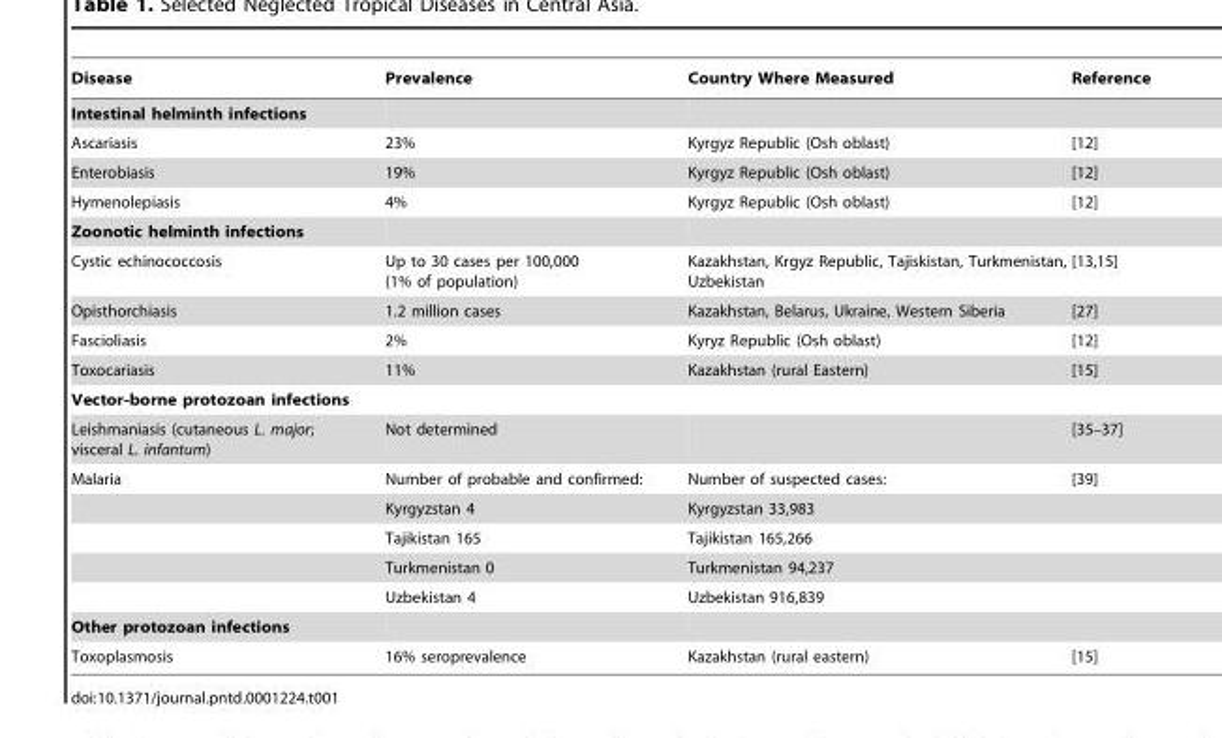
<table><thead><tr><td>Disease</td><td>Prevalence</td><td>Country Where Measured</td><td>Reference</td></tr></thead><tbody><tr><td colspan="4">Intestinal helminth infections</td></tr><tr><td>Ascariasis</td><td>23%</td><td>Kyrgyz Republic (Osh oblast)</td><td>[12]</td></tr><tr><td>Enterobiasis</td><td>19%</td><td>Kyrgyz Republic (Osh oblast)</td><td>[12]</td></tr><tr><td>Hymenolepiasis</td><td>4%</td><td>Kyrgyz Republic (Osh oblast)</td><td>[12]</td></tr><tr><td colspan="4">Zoonotic helminth infections</td></tr><tr><td>Cystic echinococcosis</td><td>Up to 30 cases per 100,000 (1% of population)</td><td>Kazakhstan, Krgyz Republic, Tajiskistan, Turkmenistan, Uzbekistan</td><td>[13,15]</td></tr><tr><td>Opisthorchiasis</td><td>1.2 million cases</td><td>Kazakhstan, Belarus, Ukraine, Western Siberia</td><td>[27]</td></tr><tr><td>Fascioliasis</td><td>2%</td><td>Kyryz Republic (Osh oblast)</td><td>[12]</td></tr><tr><td>Toxocariasis</td><td>11%</td><td>Kazakhstan (rural Eastern)</td><td>[15]</td></tr><tr><td colspan="4">Vector-borne protozoan infections</td></tr><tr><td>Leishmaniasis (cutaneous L. major; visceral L. infantum)</td><td>Not determined</td><td></td><td>[35–37]</td></tr><tr><td rowspan="5">Malaria</td><td>Number of probable and confirmed:</td><td>Number of suspected cases:</td><td>[39]</td></tr><tr><td>Kyrgyzstan 4</td><td>Kyrgyzstan 33,983</td><td></td></tr><tr><td>Tajikistan 165</td><td>Tajikistan 165,266</td><td></td></tr><tr><td>Turkmenistan 0</td><td>Turkmenistan 94,237</td><td></td></tr><tr><td>Uzbekistan 4</td><td>Uzbekistan 916,839</td><td></td></tr><tr><td colspan="4">Other protozoan infections</td></tr><tr><td>Toxoplasmosis</td><td>16% seroprevalence</td><td>Kazakhstan (rural eastern)</td><td>[15]</td></tr></tbody></table>